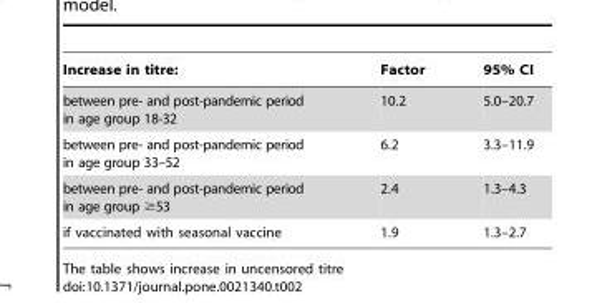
<table><thead><tr><td>Increase in titre:</td><td>Factor</td><td>95% CI</td></tr></thead><tbody><tr><td>between pre- and post-pandemic period in age group 18-32</td><td>10.2</td><td>5.0–20.7</td></tr><tr><td>between pre- and post-pandemic period in age group 33–52</td><td>6.2</td><td>3.3–11.9</td></tr><tr><td>between pre- and post-pandemic period in age group ≥53</td><td>2.4</td><td>1.3–4.3</td></tr><tr><td>if vaccinated with seasonal vaccine</td><td>1.9</td><td>1.3–2.7</td></tr></tbody></table>